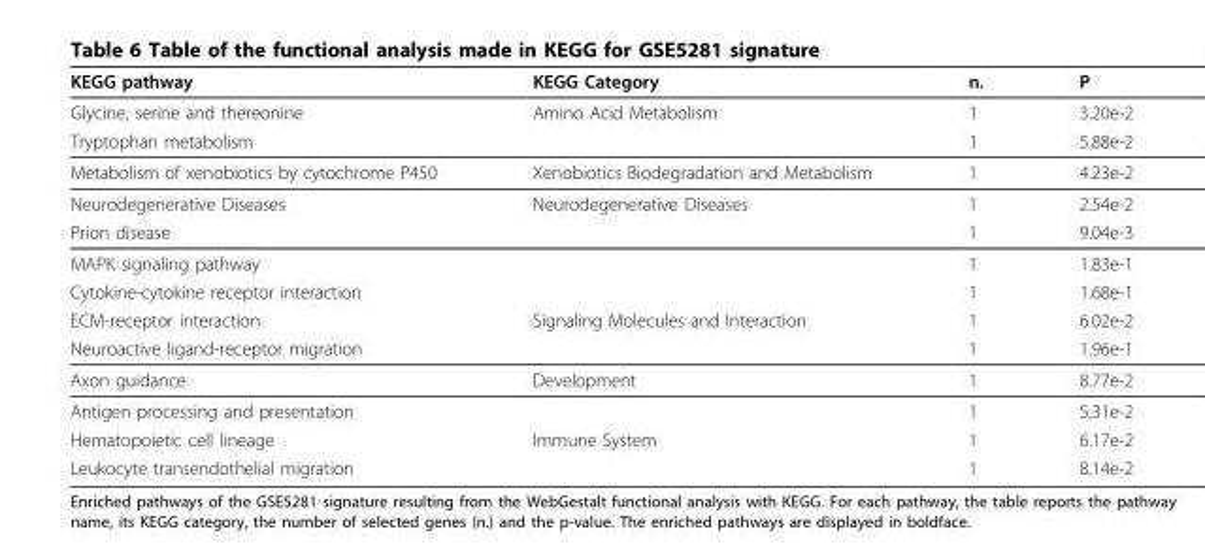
<table><thead><tr><td>KEGG pathway</td><td>KEGG Category</td><td>n.</td><td>P</td></tr></thead><tbody><tr><td>Glycine, serine and thereonine</td><td>Amino Acid Metabolism</td><td>1</td><td>3.20e-2</td></tr><tr><td>Tryptophan metabolism</td><td></td><td>1</td><td>5.88e-2</td></tr><tr><td>Metabolism of xenobiotics by cytochrome P450</td><td>Xenobiotics Biodegradation and Metabolism</td><td>1</td><td>4.23e-2</td></tr><tr><td>Neurodegenerative Diseases</td><td>Neurodegenerative Diseases</td><td>1</td><td>2.54e-2</td></tr><tr><td>Prion disease</td><td></td><td>1</td><td>9.04e-3</td></tr><tr><td>MAPK signaling pathway</td><td></td><td>1</td><td>1.83e-1</td></tr><tr><td>Cytokine-cytokine receptor interaction</td><td></td><td>1</td><td>1.68e-1</td></tr><tr><td>ECM-receptor interaction</td><td>Signaling Molecules and Interaction</td><td>1</td><td>6.02e-2</td></tr><tr><td>Neuroactive ligand-receptor migration</td><td></td><td>1</td><td>1.96e-1</td></tr><tr><td>Axon guidance</td><td>Development</td><td>1</td><td>8.77e-2</td></tr><tr><td>Antigen processing and presentation</td><td></td><td>1</td><td>5.31e-2</td></tr><tr><td>Hematopoietic cell lineage</td><td>Immune System</td><td>1</td><td>6.17e-2</td></tr><tr><td>Leukocyte transendothelial migration</td><td></td><td>1</td><td>8.14e-2</td></tr></tbody></table>